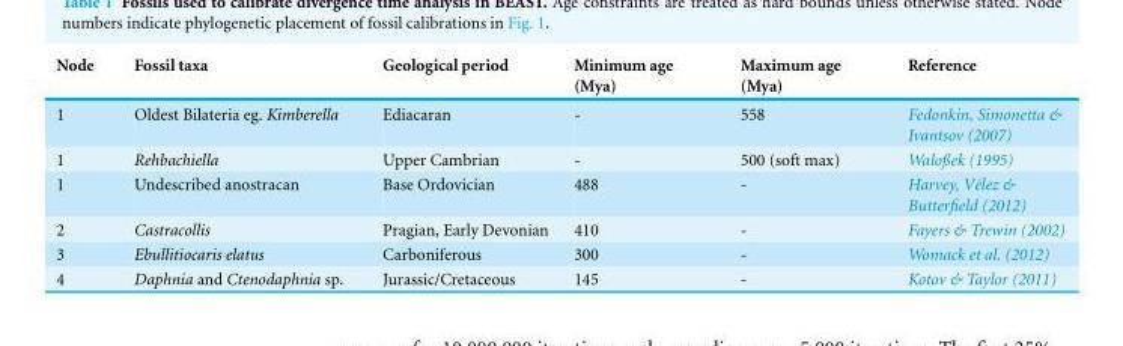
<table><thead><tr><td>Node</td><td>Fossil taxa</td><td>Geological period</td><td>Minimum age (Mya)</td><td>Maximum age (Mya)</td><td>Reference</td></tr></thead><tbody><tr><td>1</td><td>Oldest Bilateria eg. Kimberella</td><td>Ediacaran</td><td>-</td><td>558</td><td>Fedonkin, Simonetta &amp; Ivantsov (2007)</td></tr><tr><td>1</td><td>Rehbachiella</td><td>Upper Cambrian</td><td>-</td><td>500 (soft max)</td><td>Waloßek (1995)</td></tr><tr><td>1</td><td>Undescribed anostracan</td><td>Base Ordovician</td><td>488</td><td>-</td><td>Harvey, V´elez &amp; Butterfield (2012)</td></tr><tr><td>2</td><td>Castracollis</td><td>Pragian, Early Devonian</td><td>410</td><td>-</td><td>Fayers &amp; Trewin (2002)</td></tr><tr><td>3</td><td>Ebullitiocaris elatus</td><td>Carboniferous</td><td>300</td><td>-</td><td>Womack et al. (2012)</td></tr><tr><td>4</td><td>Daphnia and Ctenodaphnia sp.</td><td>Jurassic/Cretaceous</td><td>145</td><td>-</td><td>Kotov &amp; Taylor (2011)</td></tr></tbody></table>